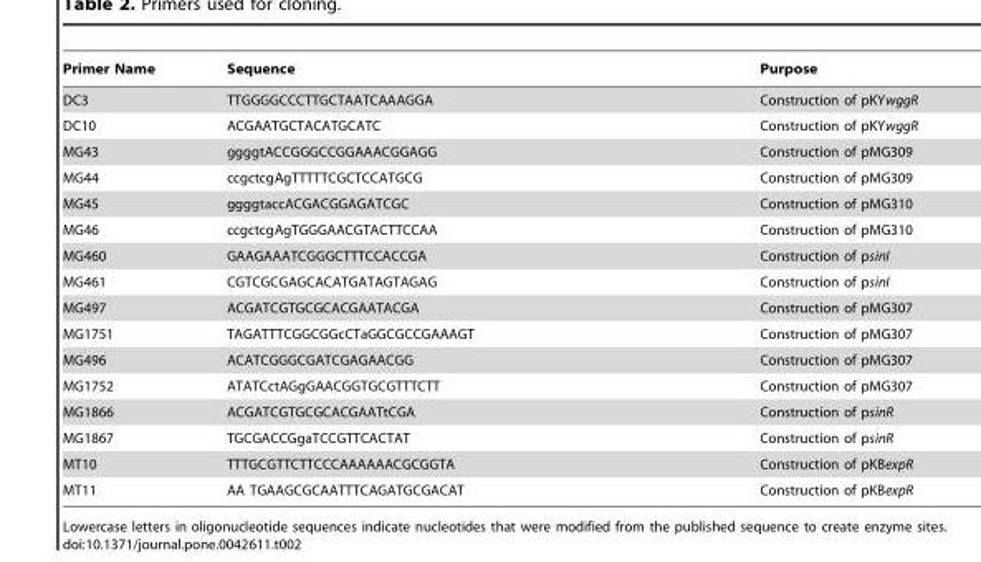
<table><thead><tr><td>Primer Name</td><td>Sequence</td><td>Purpose</td></tr></thead><tbody><tr><td>DC3</td><td>TTGGGGCCCTTGCTAATCAAAGGA</td><td>Construction of pKYwggR</td></tr><tr><td>DC10</td><td>ACGAATGCTACATGCATC</td><td>Construction of pKYwggR</td></tr><tr><td>MG43</td><td>ggggtACCGGGCCGGAAACGGAGG</td><td>Construction of pMG309</td></tr><tr><td>MG44</td><td>ccgctcgAgTTTTTCGCTCCATGCG</td><td>Construction of pMG309</td></tr><tr><td>MG45</td><td>ggggtaccACGACGGAGATCGC</td><td>Construction of pMG310</td></tr><tr><td>MG46</td><td>ccgctcgAgTGGGAACGTACTTCCAA</td><td>Construction of pMG310</td></tr><tr><td>MG460</td><td>GAAGAAATCGGGCTTTCCACCGA</td><td>Construction of psinI</td></tr><tr><td>MG461</td><td>CGTCGCGAGCACATGATAGTAGAG</td><td>Construction of psinI</td></tr><tr><td>MG497</td><td>ACGATCGTGCGCACGAATACGA</td><td>Construction of pMG307</td></tr><tr><td>MG1751</td><td>TAGATTTCGGCGGcCTaGGCGCCGAAAGT</td><td>Construction of pMG307</td></tr><tr><td>MG496</td><td>ACATCGGGCGATCGAGAACGG</td><td>Construction of pMG307</td></tr><tr><td>MG1752</td><td>ATATCctAGgGAACGGTGCGTTTCTT</td><td>Construction of pMG307</td></tr><tr><td>MG1866</td><td>ACGATCGTGCGCACGAATtCGA</td><td>Construction of psinR</td></tr><tr><td>MG1867</td><td>TGCGACCGgaTCCGTTCACTAT</td><td>Construction of psinR</td></tr><tr><td>MT10</td><td>TTTGCGTTCTTCCCAAAAAACGCGGTA</td><td>Construction of pKBexpR</td></tr><tr><td>MT11</td><td>AA TGAAGCGCAATTTCAGATGCGACAT</td><td>Construction of pKBexpR</td></tr></tbody></table>